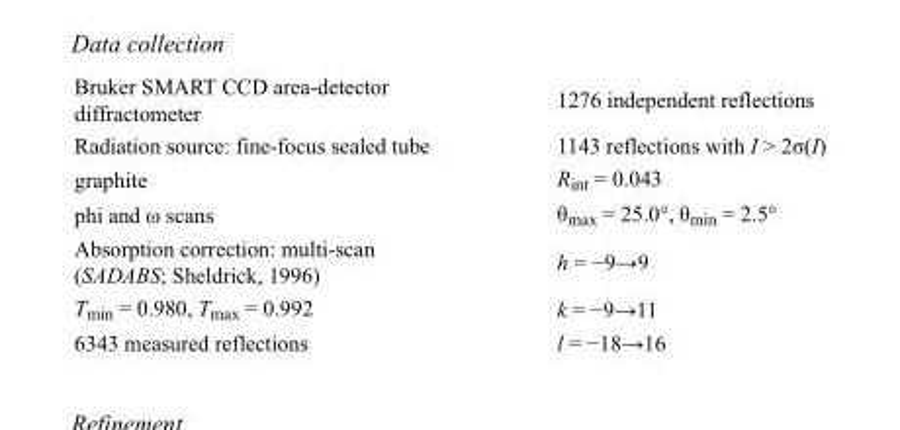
<table><tbody><tr><td>Bruker SMART CCD area-detector diffractometer</td><td>1276 independent reflections</td></tr><tr><td>Radiation source: fine-focus sealed tube</td><td>1143 reflections with I &gt; 2σ(I)</td></tr><tr><td>graphite</td><td>R<sub>int</sub> = 0.043</td></tr><tr><td>phi and ω scans</td><td>θ<sub>max</sub> = 25.0°, θ<sub>min</sub> = 2.5°</td></tr><tr><td>Absorption correction: multi-scan (SADABS; Sheldrick, 1996)</td><td>h = −9→9</td></tr><tr><td>T<sub>min</sub> = 0.980, T<sub>max</sub> = 0.992</td><td>k = −9→11</td></tr><tr><td>6343 measured reflections</td><td>l = −18→16</td></tr></tbody></table>